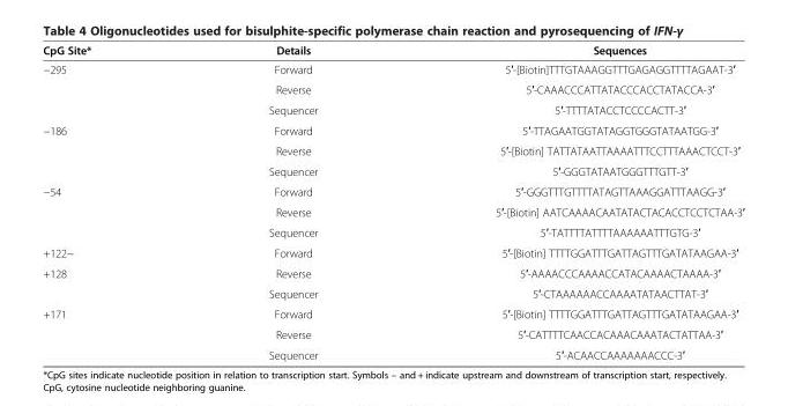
<table><thead><tr><td>CpG Site*</td><td>Details</td><td>Sequences</td></tr></thead><tbody><tr><td rowspan="3">−295</td><td>Forward</td><td>5′-[Biotin]TTTGTAAAGGTTTGAGAGGTTTTAGAAT-3′</td></tr><tr><td>Reverse</td><td>5′-CAAACCCATTATACCCACCTATACCA-3′</td></tr><tr><td>Sequencer</td><td>5′-TTTTATACCTCCCCACTT-3′</td></tr><tr><td rowspan="3">−186</td><td>Forward</td><td>5′-TTAGAATGGTATAGGTGGGTATAATGG-3′</td></tr><tr><td>Reverse</td><td>5′-[Biotin] TATTATAATTAAAATTTCCTTTAAACTCCT-3′</td></tr><tr><td>Sequencer</td><td>5′-GGGTATAATGGGTTTGTT-3′</td></tr><tr><td rowspan="3">−54</td><td>Forward</td><td>5′-GGGTTTGTTTTATAGTTAAAGGATTTAAGG-3′</td></tr><tr><td>Reverse</td><td>5′-[Biotin] AATCAAAACAATATACTACACCTCCTCTAA-3′</td></tr><tr><td>Sequencer</td><td>5′-TATTTTATTTTAAAAAATTTGTG-3′</td></tr><tr><td>+122~</td><td>Forward</td><td>5′-[Biotin] TTTTGGATTTGATTAGTTTGATATAAGAA-3′</td></tr><tr><td rowspan="2">+128</td><td>Reverse</td><td>5′-AAAACCCAAAACCATACAAAACTAAAA-3′</td></tr><tr><td>Sequencer</td><td>5′-CTAAAAAACCAAAATATAACTTAT-3′</td></tr><tr><td rowspan="3">+171</td><td>Forward</td><td>5′-[Biotin] TTTTGGATTTGATTAGTTTGATATAAGAA-3′</td></tr><tr><td>Reverse</td><td>5′-CATTTTCAACCACAAACAAATACTATTAA-3′</td></tr><tr><td>Sequencer</td><td>5′-ACAACCAAAAAAACCC-3′</td></tr></tbody></table>